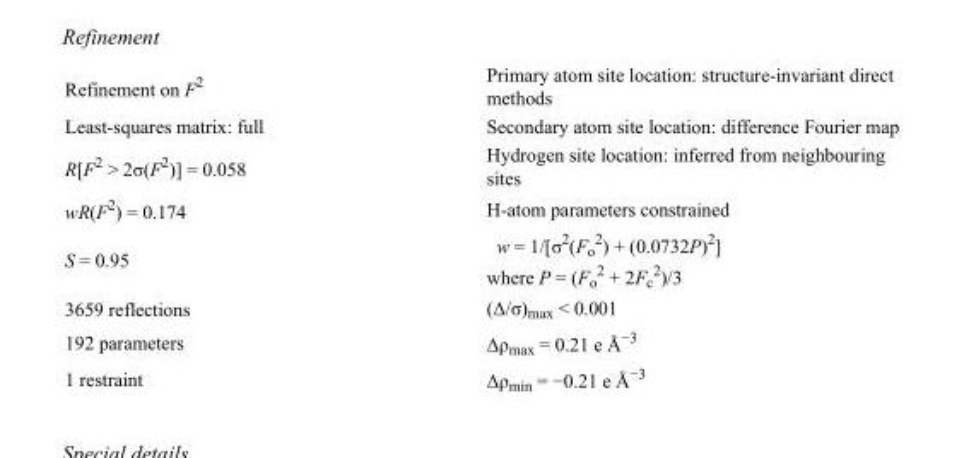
<table><tbody><tr><td>Refinement on F<sup>2</sup></td><td>Primary atom site location: structure-invariant direct methods</td></tr><tr><td>Least-squares matrix: full</td><td>Secondary atom site location: difference Fourier map</td></tr><tr><td>R[F<sup>2</sup> &gt; 2σ(F<sup>2</sup>)] = 0.058</td><td>Hydrogen site location: inferred from neighbouring sites</td></tr><tr><td>wR(F<sup>2</sup>) = 0.174</td><td>H-atom parameters constrained</td></tr><tr><td>S = 0.95</td><td>w = 1/[σ<sup>2</sup>(F<sub>o</sub> <sup>2</sup>) + (0.0732P)<sup>2</sup>] where P = (F<sub>o</sub> <sup>2</sup> + 2F<sub>c</sub> <sup>2</sup>)/3</td></tr><tr><td>3659 reflections</td><td>(Δ/σ)<sub>max</sub> &lt; 0.001</td></tr><tr><td>192 parameters</td><td>Δρ<sub>max</sub> = 0.21 e Å<sup>−3</sup></td></tr><tr><td>1 restraint</td><td>Δρ<sub>min</sub> = −0.21 e Å<sup>−3</sup></td></tr></tbody></table>